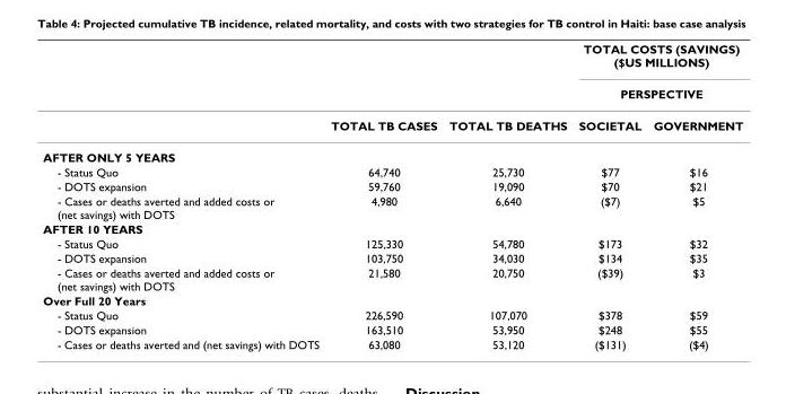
<table><thead><tr><td rowspan="3"></td><td rowspan="3">TOTAL TB CASES</td><td rowspan="3">TOTAL TB DEATHS</td><td rowspan="2" colspan="2">TOTAL COSTS (SAVINGS) ($US MILLIONS) PERSPECTIVE</td></tr><tr></tr><tr><td>SOCIETAL</td><td>GOVERNMENT</td></tr></thead><tbody><tr><td colspan="5">AFTER ONLY 5 YEARS</td></tr><tr><td>- Status Quo</td><td>64,740</td><td>25,730</td><td>$77</td><td>$16</td></tr><tr><td>- DOTS expansion</td><td>59,760</td><td>19,090</td><td>$70</td><td>$21</td></tr><tr><td>- Cases or deaths averted and added costs or (net savings) with DOTS</td><td>4,980</td><td>6,640</td><td>($7)</td><td>$5</td></tr><tr><td colspan="5">AFTER 10 YEARS</td></tr><tr><td>- Status Quo</td><td>125,330</td><td>54,780</td><td>$173</td><td>$32</td></tr><tr><td>- DOTS expansion</td><td>103,750</td><td>34,030</td><td>$134</td><td>$35</td></tr><tr><td>- Cases or deaths averted and added costs or (net savings) with DOTS</td><td>21,580</td><td>20,750</td><td>($39)</td><td>$3</td></tr><tr><td colspan="5">Over Full 20 Years</td></tr><tr><td>- Status Quo</td><td>226,590</td><td>107,070</td><td>$378</td><td>$59</td></tr><tr><td>- DOTS expansion</td><td>163,510</td><td>53,950</td><td>$248</td><td>$55</td></tr><tr><td>- Cases or deaths averted and (net savings) with DOTS</td><td>63,080</td><td>53,120</td><td>($131)</td><td>($4)</td></tr></tbody></table>